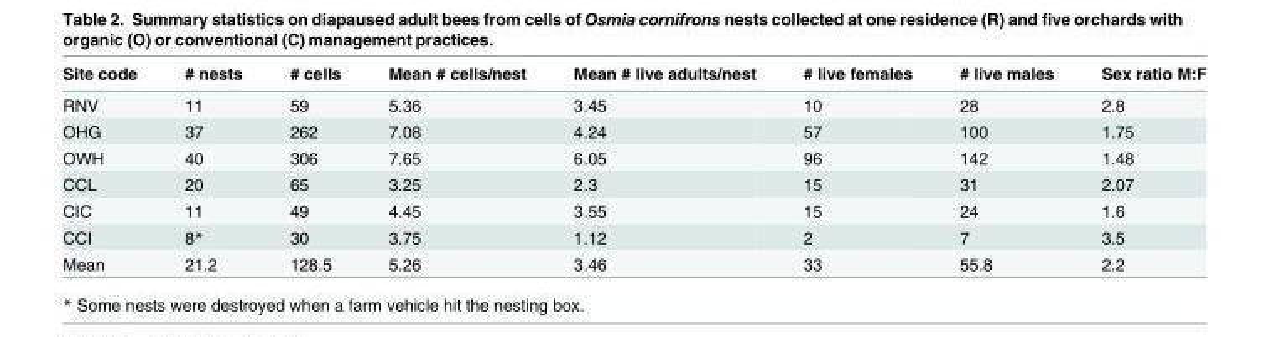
<table><thead><tr><td>Site code</td><td># nests</td><td># cells</td><td>Mean # cells/nest</td><td>Mean # live adults/nest</td><td># live females</td><td># live males</td><td>Sex ratio M:F</td></tr></thead><tbody><tr><td>RNV</td><td>11</td><td>59</td><td>5.36</td><td>3.45</td><td>10</td><td>28</td><td>2.8</td></tr><tr><td>OHG</td><td>37</td><td>262</td><td>7.08</td><td>4.24</td><td>57</td><td>100</td><td>1.75</td></tr><tr><td>OWH</td><td>40</td><td>306</td><td>7.65</td><td>6.05</td><td>96</td><td>142</td><td>1.48</td></tr><tr><td>CCL</td><td>20</td><td>65</td><td>3.25</td><td>2.3</td><td>15</td><td>31</td><td>2.07</td></tr><tr><td>CIC</td><td>11</td><td>49</td><td>4.45</td><td>3.55</td><td>15</td><td>24</td><td>1.6</td></tr><tr><td>CCI</td><td>8*</td><td>30</td><td>3.75</td><td>1.12</td><td>2</td><td>7</td><td>3.5</td></tr><tr><td>Mean</td><td>21.2</td><td>128.5</td><td>5.26</td><td>3.46</td><td>33</td><td>55.8</td><td>2.2</td></tr></tbody></table>